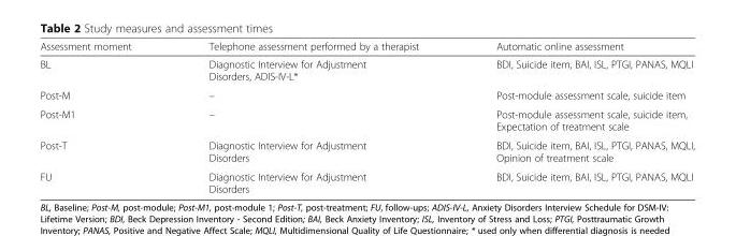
<table><thead><tr><td>Assessment moment</td><td>Telephone assessment performed by a therapist</td><td>Automatic online assessment</td></tr></thead><tbody><tr><td>BL</td><td>Diagnostic Interview for Adjustment Disorders, ADIS-IV-L*</td><td>BDI, Suicide item, BAI, ISL, PTGI, PANAS, MQLI</td></tr><tr><td>Post-M</td><td>–</td><td>Post-module assessment scale, suicide item</td></tr><tr><td>Post-M1</td><td>–</td><td>Post-module assessment scale, suicide item, Expectation of treatment scale</td></tr><tr><td>Post-T</td><td>Diagnostic Interview for Adjustment Disorders</td><td>BDI, Suicide item, BAI, ISL, PTGI, PANAS, MQLI, Opinion of treatment scale</td></tr><tr><td>FU</td><td>Diagnostic Interview for Adjustment Disorders</td><td>BDI, Suicide item, BAI, ISL, PTGI, PANAS, MQLI</td></tr></tbody></table>